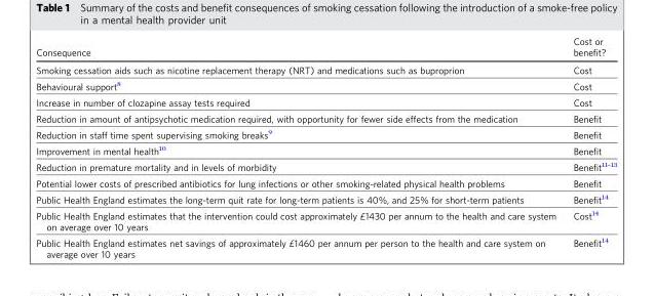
<table><thead><tr><td>Consequence</td><td>Cost or benefit?</td></tr></thead><tbody><tr><td>Smoking cessation aids such as nicotine replacement therapy (NRT) and medications such as buproprion</td><td>Cost</td></tr><tr><td>Behavioural support<sup>8</sup></td><td>Cost</td></tr><tr><td>Increase in number of clozapine assay tests required</td><td>Cost</td></tr><tr><td>Reduction in amount of antipsychotic medication required, with opportunity for fewer side effects from the medication</td><td>Benefit</td></tr><tr><td>Reduction in staff time spent supervising smoking breaks<sup>9</sup></td><td>Benefit</td></tr><tr><td>Improvement in mental health<sup>10</sup></td><td>Benefit</td></tr><tr><td>Reduction in premature mortality and in levels of morbidity</td><td>Benefit<sup>11–13</sup></td></tr><tr><td>Potential lower costs of prescribed antibiotics for lung infections or other smoking-related physical health problems</td><td>Benefit</td></tr><tr><td>Public Health England estimates the long-term quit rate for long-term patients is 40%, and 25% for short-term patients</td><td>Benefit<sup>14</sup></td></tr><tr><td>Public Health England estimates that the intervention could cost approximately £1430 per annum to the health and care system on average over 10 years</td><td>Cost<sup>14</sup></td></tr><tr><td>Public Health England estimates net savings of approximately £1460 per annum per person to the health and care system on average over 10 years</td><td>Benefit<sup>14</sup></td></tr></tbody></table>